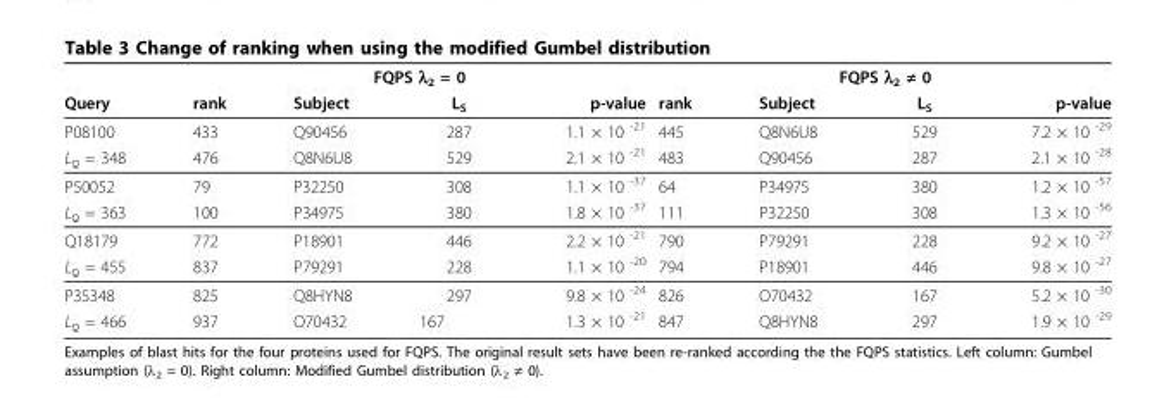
<table><thead><tr><td rowspan="2">Query</td><td colspan="4">FQPS λ<sub>2</sub> = 0</td><td colspan="4">FQPS λ<sub>2</sub> ≠ 0</td></tr><tr><td>rank</td><td>Subject</td><td>L<sub>S</sub></td><td>p-value</td><td>rank</td><td>Subject</td><td>L<sub>S</sub></td><td>p-value</td></tr></thead><tbody><tr><td>P08100</td><td>433</td><td>Q90456</td><td>287</td><td>1.1 × 10 <sup>-21</sup></td><td>445</td><td>Q8N6U8</td><td>529</td><td>7.2 × 10 <sup>-29</sup></td></tr><tr><td>L<sub>Q</sub> = 348</td><td>476</td><td>Q8N6U8</td><td>529</td><td>2.1 × 10 <sup>-21</sup></td><td>483</td><td>Q90456</td><td>287</td><td>2.1 × 10 <sup>-28</sup></td></tr><tr><td>P50052</td><td>79</td><td>P32250</td><td>308</td><td>1.1 × 10 <sup>-37</sup></td><td>64</td><td>P34975</td><td>380</td><td>1.2 × 10 <sup>-57</sup></td></tr><tr><td>L<sub>Q</sub> = 363</td><td>100</td><td>P34975</td><td>380</td><td>1.8 × 10 <sup>-37</sup></td><td>111</td><td>P32250</td><td>308</td><td>1.3 × 10 <sup>-56</sup></td></tr><tr><td>Q18179</td><td>772</td><td>P18901</td><td>446</td><td>2.2 × 10 <sup>-21</sup></td><td>790</td><td>P79291</td><td>228</td><td>9.2 × 10 <sup>-27</sup></td></tr><tr><td>L<sub>Q</sub> = 455</td><td>837</td><td>P79291</td><td>228</td><td>1.1 × 10 <sup>-20</sup></td><td>794</td><td>P18901</td><td>446</td><td>9.8 × 10 <sup>-27</sup></td></tr><tr><td>P35348</td><td>825</td><td>Q8HYN8</td><td>297</td><td>9.8 × 10 <sup>-24</sup></td><td>826</td><td>O70432</td><td>167</td><td>5.2 × 10 <sup>-30</sup></td></tr><tr><td>L<sub>Q</sub> = 466</td><td>937</td><td>O70432</td><td>167</td><td>1.3 × 10 <sup>-21</sup></td><td>847</td><td>Q8HYN8</td><td>297</td><td>1.9 × 10 <sup>-29</sup></td></tr></tbody></table>